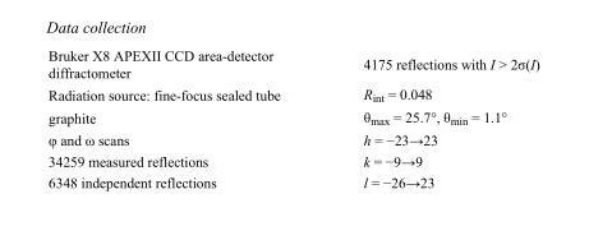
<table><tbody><tr><td>Bruker X8 APEXII CCD area-detector diffractometer</td><td>4175 reflections with I &gt; 2σ(I)</td></tr><tr><td>Radiation source: fine-focus sealed tube</td><td>R<sub>int</sub> = 0.048</td></tr><tr><td>graphite</td><td>θ<sub>max</sub> = 25.7°, θ<sub>min</sub> = 1.1°</td></tr><tr><td>φ and ω scans</td><td>h = −23→23</td></tr><tr><td>34259 measured reflections</td><td>k = −9→9</td></tr><tr><td>6348 independent reflections</td><td>l = −26→23</td></tr></tbody></table>